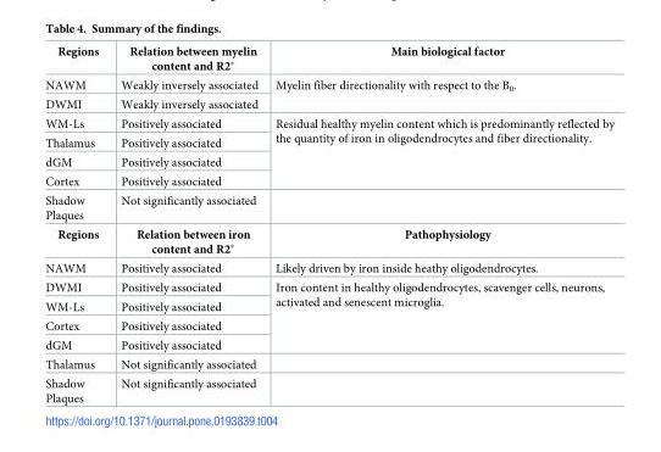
<table><tbody><tr><td>Regions</td><td>Relation between myelin content and R2*</td><td>Main biological factor</td></tr><tr><td>NAWM</td><td>Weakly inversely associated</td><td rowspan="2">Myelin fiber directionality with respect to the B<sub>0</sub>.</td></tr><tr><td>DWMI</td><td>Weakly inversely associated</td></tr><tr><td>WM-Ls</td><td>Positively associated</td><td rowspan="4">Residual healthy myelin content which is predominantly reflected by the quantity of iron in oligodendrocytes and fiber directionality.</td></tr><tr><td>Thalamus</td><td>Positively associated</td></tr><tr><td>dGM</td><td>Positively associated</td></tr><tr><td>Cortex</td><td>Positively associated</td></tr><tr><td>Shadow Plaques</td><td>Not significantly associated</td><td></td></tr><tr><td>Regions</td><td>Relation between iron content and R2*</td><td>Pathophysiology</td></tr><tr><td>NAWM</td><td>Positively associated</td><td>Likely driven by iron inside heathy oligodendrocytes.</td></tr><tr><td>DWMI</td><td>Positively associated</td><td rowspan="4">Iron content in healthy oligodendrocytes, scavenger cells, neurons, activated and senescent microglia.</td></tr><tr><td>WM-Ls</td><td>Positively associated</td></tr><tr><td>Cortex</td><td>Positively associated</td></tr><tr><td>dGM</td><td>Positively associated</td></tr><tr><td>Thalamus</td><td>Not significantly associated</td><td></td></tr><tr><td>Shadow Plaques</td><td>Not significantly associated</td><td></td></tr></tbody></table>